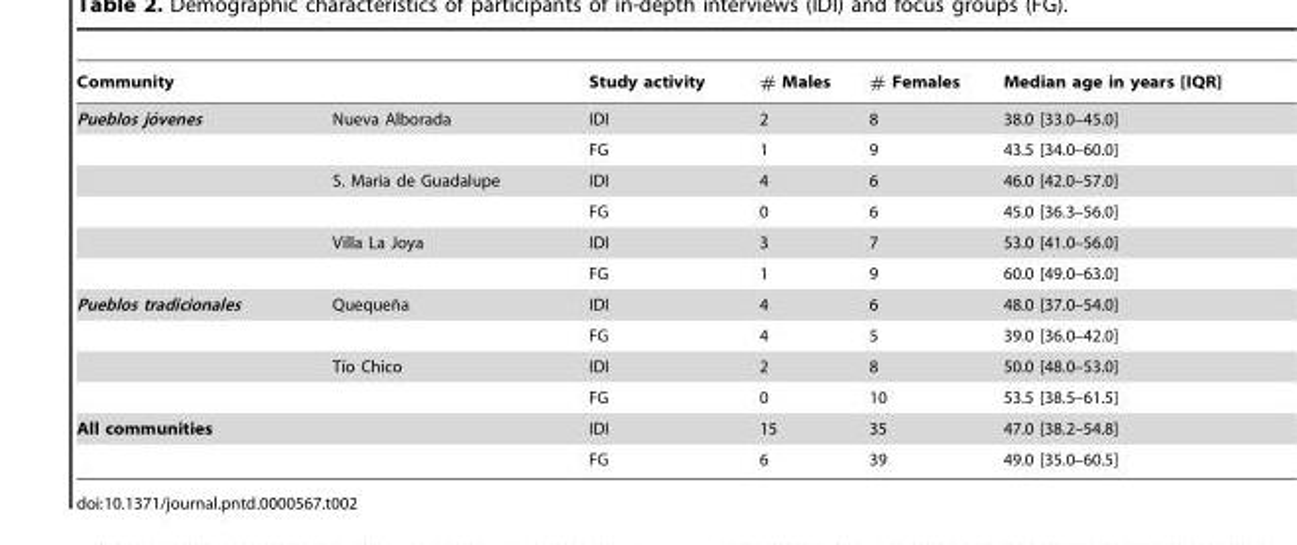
<table><thead><tr><td colspan="2">Community</td><td rowspan="2">Study activity IDI</td><td rowspan="2"># Males 2</td><td rowspan="2"># Females 8</td><td rowspan="2">Median age in years [IQR] 38.0 [33.0–45.0]</td></tr><tr><td>Pueblos jo´venes</td><td>Nueva Alborada</td></tr></thead><tbody><tr><td></td><td></td><td>FG</td><td>1</td><td>9</td><td>43.5 [34.0–60.0]</td></tr><tr><td></td><td>S. Maria de Guadalupe</td><td>IDI</td><td>4</td><td>6</td><td>46.0 [42.0–57.0]</td></tr><tr><td></td><td></td><td>FG</td><td>0</td><td>6</td><td>45.0 [36.3–56.0]</td></tr><tr><td></td><td>Villa La Joya</td><td>IDI</td><td>3</td><td>7</td><td>53.0 [41.0–56.0]</td></tr><tr><td></td><td></td><td>FG</td><td>1</td><td>9</td><td>60.0 [49.0–63.0]</td></tr><tr><td rowspan="4">Pueblos tradicionales</td><td>Quequen˜a</td><td>IDI</td><td>4</td><td>6</td><td>48.0 [37.0–54.0]</td></tr><tr><td></td><td>FG</td><td>4</td><td>5</td><td>39.0 [36.0–42.0]</td></tr><tr><td>Tı´o Chico</td><td>IDI</td><td>2</td><td>8</td><td>50.0 [48.0–53.0]</td></tr><tr><td></td><td>FG</td><td>0</td><td>10</td><td>53.5 [38.5–61.5]</td></tr><tr><td rowspan="2">All communities</td><td></td><td>IDI</td><td>15</td><td>35</td><td>47.0 [38.2–54.8]</td></tr><tr><td></td><td>FG</td><td>6</td><td>39</td><td>49.0 [35.0–60.5]</td></tr></tbody></table>